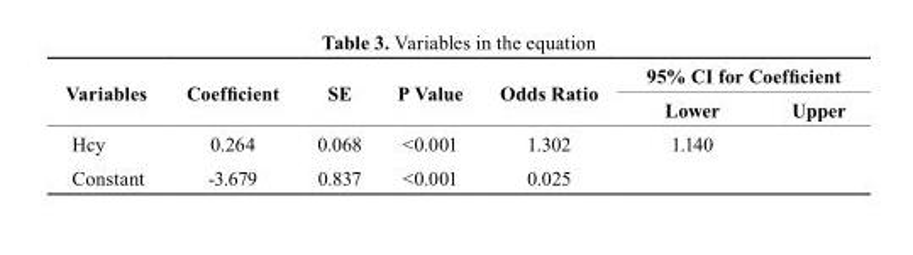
<table><thead><tr><td rowspan="2">Variables</td><td rowspan="2">Coefficient</td><td rowspan="2">sE</td><td rowspan="2">P Value</td><td rowspan="2">Odds ratio</td><td colspan="2">95% CI for Coefficient</td></tr><tr><td>Lower</td><td>Upper</td></tr></thead><tbody><tr><td>Hcy</td><td>0.264</td><td>0.068</td><td>&lt;0.001</td><td>1.302</td><td>1.140</td><td></td></tr><tr><td>Constant</td><td>-3.679</td><td>0.837</td><td>&lt;0.001</td><td>0.025</td><td></td><td></td></tr></tbody></table>